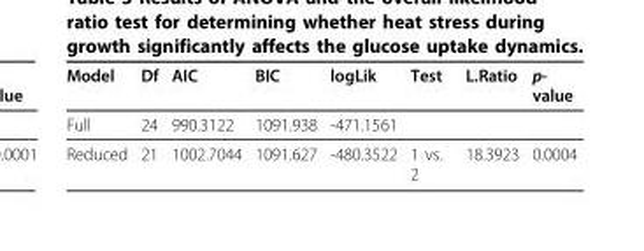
<table><thead><tr><td>Model</td><td>Df</td><td>AIC</td><td>BIC</td><td>logLik</td><td>Test</td><td>L.Ratio</td><td>p- value</td></tr></thead><tbody><tr><td>Full</td><td>24</td><td>990.3122</td><td>1091.938</td><td>-471.1561</td><td></td><td></td><td></td></tr><tr><td>Reduced</td><td>21</td><td>1002.7044</td><td>1091.627</td><td>-480.3522</td><td>1 vs. 2</td><td>18.3923</td><td>0.0004</td></tr></tbody></table>